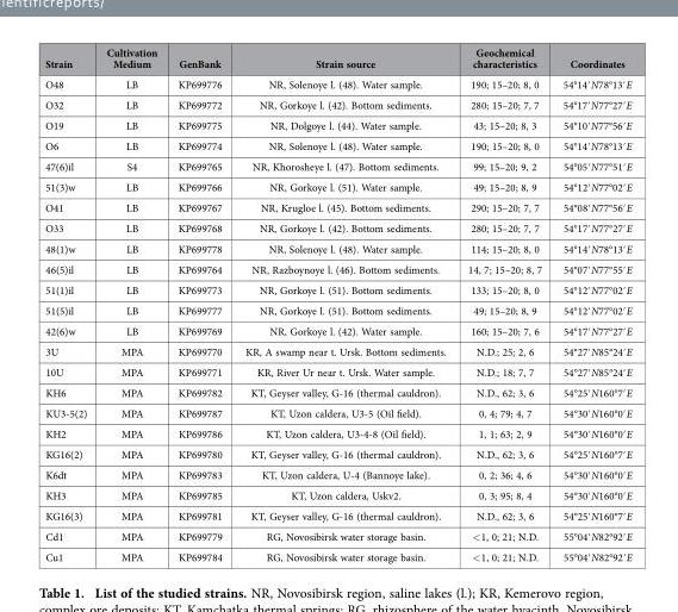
<table><thead><tr><td>Strain</td><td>Cultivation Medium</td><td>GenBank</td><td>Strain source</td><td>Geochemical characteristics</td><td>Coordinates</td></tr></thead><tbody><tr><td>O48</td><td>LB</td><td>KP699776</td><td>NR, Solenoye l. (48). Water sample.</td><td>190; 15–20; 8, 0</td><td>54°14′ N78°13′ E</td></tr><tr><td>O32</td><td>LB</td><td>KP699772</td><td>NR, Gorkoye l. (42). Bottom sediments.</td><td>280; 15–20; 7, 7</td><td>54°17′ N77°27′ E</td></tr><tr><td>O19</td><td>LB</td><td>KP699775</td><td>NR, Dolgoye l. (44). Water sample.</td><td>43; 15–20; 8, 3</td><td>54°10′ N77°56′ E</td></tr><tr><td>O6</td><td>LB</td><td>KP699774</td><td>NR, Solenoye l. (48). Water sample.</td><td>190; 15–20; 8, 0</td><td>54°14′ N78°13′ E</td></tr><tr><td>47(6)il</td><td>S4</td><td>KP699765</td><td>NR, Khorosheye l. (47). Bottom sediments.</td><td>99; 15–20; 9, 2</td><td>54°05′ N77°51′ E</td></tr><tr><td>51(3)w</td><td>LB</td><td>KP699766</td><td>NR, Gorkoye l. (51). Water sample.</td><td>49; 15–20; 8, 9</td><td>54°12′ N77°02′ E</td></tr><tr><td>O41</td><td>LB</td><td>KP699767</td><td>NR, Krugloe l. (45). Bottom sediments.</td><td>290; 15–20; 7, 7</td><td>54°08′ N77°56′ E</td></tr><tr><td>O33</td><td>LB</td><td>KP699768</td><td>NR, Gorkoye l. (42). Bottom sediments.</td><td>280; 15–20; 7, 7</td><td>54°17′ N77°27′ E</td></tr><tr><td>48(1)w</td><td>LB</td><td>KP699778</td><td>NR, Solenoye l. (48). Water sample.</td><td>114; 15–20; 8, 0</td><td>54°14′ N78°13′ E</td></tr><tr><td>46(5)il</td><td>LB</td><td>KP699764</td><td>NR, Razboynoye l. (46). Bottom sediments.</td><td>14, 7; 15–20; 8, 7</td><td>54°07′ N77°55′ E</td></tr><tr><td>51(1)il</td><td>LB</td><td>KP699773</td><td>NR, Gorkoye l. (51). Bottom sediments.</td><td>133; 15–20; 8, 0</td><td>54°12′ N77°02′ E</td></tr><tr><td>51(5)il</td><td>LB</td><td>KP699777</td><td>NR, Gorkoye l. (51). Bottom sediments.</td><td>49; 15–20; 8, 9</td><td>54°12′ N77°02′ E</td></tr><tr><td>42(6)w</td><td>LB</td><td>KP699769</td><td>NR, Gorkoye l. (42). Water sample.</td><td>160; 15–20; 7, 6</td><td>54°17′ N77°27′ E</td></tr><tr><td>3U</td><td>MPA</td><td>KP699770</td><td>KR, A swamp near t. Ursk. Bottom sediments.</td><td>N.D.; 25; 2, 6</td><td>54°27′ N85°24′ E</td></tr><tr><td>10U</td><td>MPA</td><td>KP699771</td><td>KR, River Ur near t. Ursk. Water sample.</td><td>N.D.; 18; 7, 7</td><td>54°27′ N85°24′ E</td></tr><tr><td>KH6</td><td>MPA</td><td>KP699782</td><td>KT, Geyser valley, G-16 (thermal cauldron).</td><td>N.D., 62; 3, 6</td><td>54°25′ N160°7′ E</td></tr><tr><td>KU3-5(2)</td><td>MPA</td><td>KP699787</td><td>KT, Uzon caldera, U3-5 (Oil field).</td><td>0, 4; 79; 4, 7</td><td>54°30′ N160°0′ E</td></tr><tr><td>KH2</td><td>MPA</td><td>KP699786</td><td>KT, Uzon caldera, U3-4-8 (Oil field).</td><td>1, 1; 63; 2, 9</td><td>54°30′ N160°0′ E</td></tr><tr><td>KG16(2)</td><td>MPA</td><td>KP699780</td><td>KT, Geyser valley, G-16 (thermal cauldron).</td><td>N.D., 62; 3, 6</td><td>54°25′ N160°7′ E</td></tr><tr><td>K6dt</td><td>MPA</td><td>KP699783</td><td>KT, Uzon caldera, U-4 (Bannoye lake).</td><td>0, 2; 36; 4, 6</td><td>54°30′ N160°0′ E</td></tr><tr><td>KH3</td><td>MPA</td><td>KP699785</td><td>KT, Uzon caldera, Uskv2.</td><td>0, 3; 95; 8, 4</td><td>54°30′ N160°0′ E</td></tr><tr><td>KG16(3)</td><td>MPA</td><td>KP699781</td><td>KT, Geyser valley, G-16 (thermal cauldron).</td><td>N.D., 62; 3, 6</td><td>54°25′ N160°7′ E</td></tr><tr><td>Cd1</td><td>MPA</td><td>KP699779</td><td>RG, Novosibirsk water storage basin.</td><td>&lt; 1, 0; 21; N.D.</td><td>55°04′ N82°92′ E</td></tr><tr><td>Cu1</td><td>MPA</td><td>KP699784</td><td>RG, Novosibirsk water storage basin.</td><td>&lt; 1, 0; 21; N.D.</td><td>55°04′ N82°92′ E</td></tr></tbody></table>